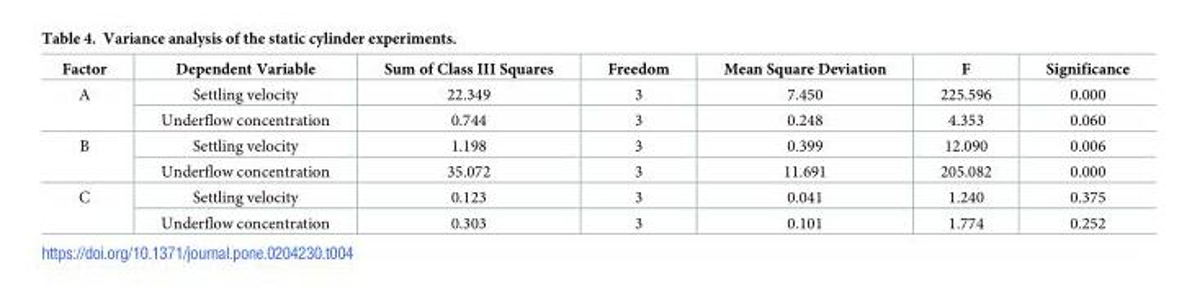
<table><thead><tr><td>Factor</td><td>Dependent Variable</td><td>Sum of Class III Squares</td><td>Freedom</td><td>Mean Square Deviation</td><td>F</td><td>Significance</td></tr></thead><tbody><tr><td rowspan="2">A</td><td>Settling velocity</td><td>22.349</td><td>3</td><td>7.450</td><td>225.596</td><td>0.000</td></tr><tr><td>Underflow concentration</td><td>0.744</td><td>3</td><td>0.248</td><td>4.353</td><td>0.060</td></tr><tr><td rowspan="2">B</td><td>Settling velocity</td><td>1.198</td><td>3</td><td>0.399</td><td>12.090</td><td>0.006</td></tr><tr><td>Underflow concentration</td><td>35.072</td><td>3</td><td>11.691</td><td>205.082</td><td>0.000</td></tr><tr><td rowspan="2">C</td><td>Settling velocity</td><td>0.123</td><td>3</td><td>0.041</td><td>1.240</td><td>0.375</td></tr><tr><td>Underflow concentration</td><td>0.303</td><td>3</td><td>0.101</td><td>1.774</td><td>0.252</td></tr></tbody></table>